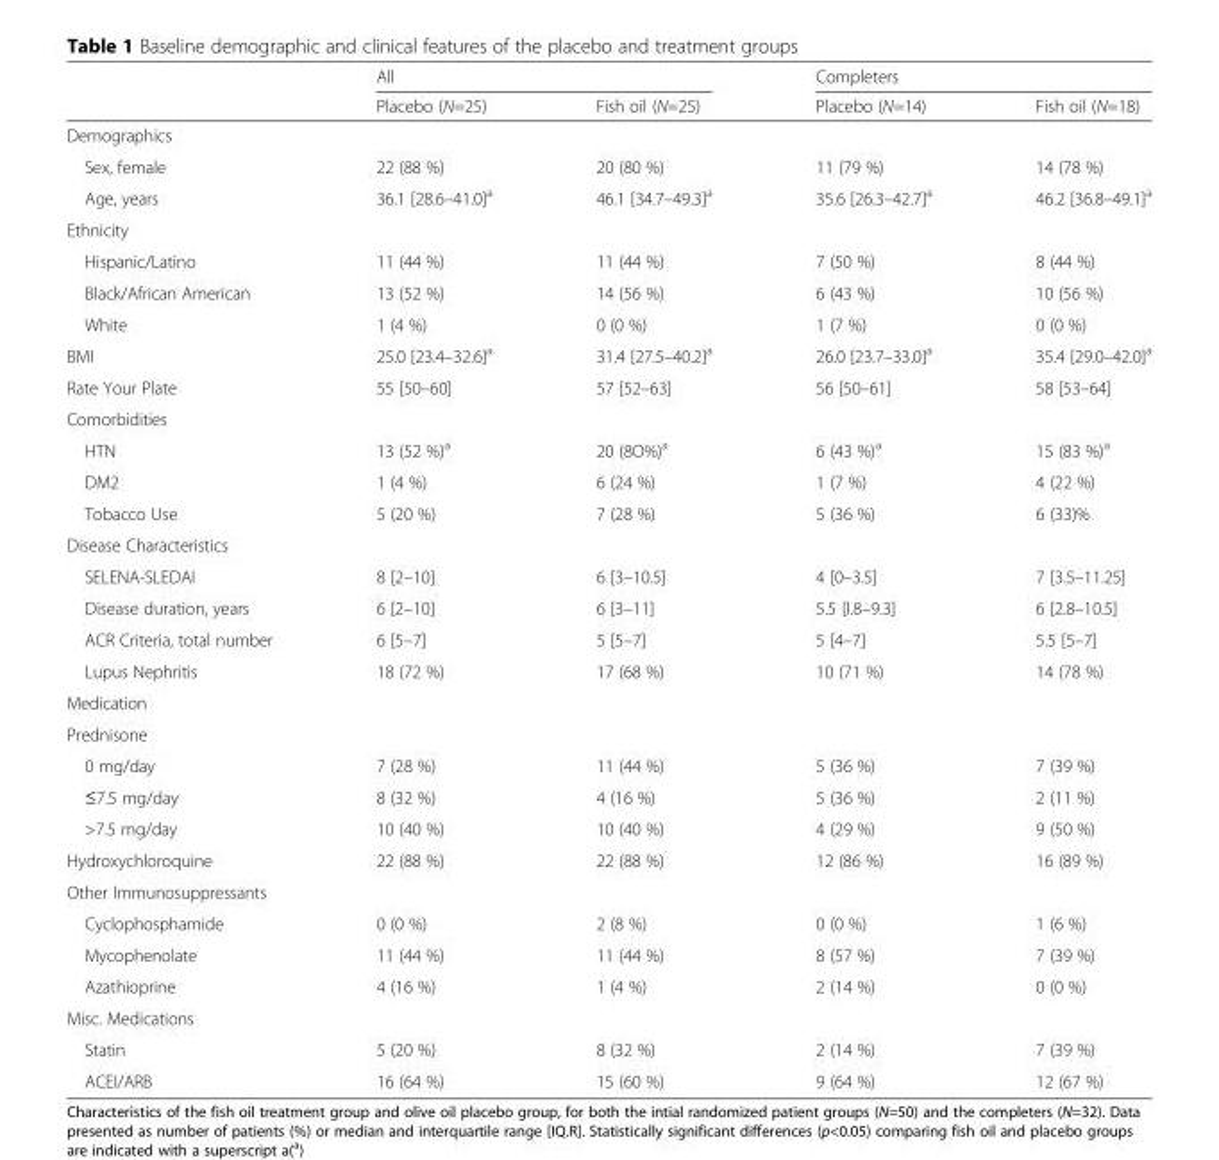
<table><thead><tr><td rowspan="2"></td><td colspan="2">All</td><td colspan="2">Completers</td></tr><tr><td>Placebo (N=25)</td><td>Fish oil (N=25)</td><td>Placebo (N=14)</td><td>Fish oil (N=18)</td></tr></thead><tbody><tr><td colspan="5">Demographics</td></tr><tr><td>Sex, female</td><td>22 (88 %)</td><td>20 (80 %)</td><td>11 (79 %)</td><td>14 (78 %)</td></tr><tr><td>Age, years</td><td>36.1 [28.6–41.0]<sup>a</sup></td><td>46.1 [34.7–49.3]<sup>a</sup></td><td>35.6 [26.3–42.7]<sup>a</sup></td><td>46.2 [36.8–49.1]<sup>a</sup></td></tr><tr><td colspan="5">Ethnicity</td></tr><tr><td>Hispanic/Latino</td><td>11 (44 %)</td><td>11 (44 %)</td><td>7 (50 %)</td><td>8 (44 %)</td></tr><tr><td>Black/African American</td><td>13 (52 %)</td><td>14 (56 %)</td><td>6 (43 %)</td><td>10 (56 %)</td></tr><tr><td>White</td><td>1 (4 %)</td><td>0 (0 %)</td><td>1 (7 %)</td><td>0 (0 %)</td></tr><tr><td>BMI</td><td>25.0 [23.4–32.6]<sup>a</sup></td><td>31.4 [27.5–40.2]<sup>a</sup></td><td>26.0 [23.7–33.0]<sup>a</sup></td><td>35.4 [29.0–42.0]<sup>a</sup></td></tr><tr><td>Rate Your Plate</td><td>55 [50–60]</td><td>57 [52–63]</td><td>56 [50–61]</td><td>58 [53–64]</td></tr><tr><td colspan="5">Comorbidities</td></tr><tr><td>HTN</td><td>13 (52 %)<sup>a</sup></td><td>20 (8O%)<sup>a</sup></td><td>6 (43 %)<sup>a</sup></td><td>15 (83 %)<sup>a</sup></td></tr><tr><td>DM2</td><td>1 (4 %)</td><td>6 (24 %)</td><td>1 (7 %)</td><td>4 (22 %)</td></tr><tr><td>Tobacco Use</td><td>5 (20 %)</td><td>7 (28 %)</td><td>5 (36 %)</td><td>6 (33)%</td></tr><tr><td colspan="5">Disease Characteristics</td></tr><tr><td>SELENA-SLEDAI</td><td>8 [2–10]</td><td>6 [3–10.5]</td><td>4 [0–3.5]</td><td>7 [3.5–11.25]</td></tr><tr><td>Disease duration, years</td><td>6 [2–10]</td><td>6 [3–11]</td><td>5.5 [l.8–9.3]</td><td>6 [2.8–10.5]</td></tr><tr><td>ACR Criteria, total number</td><td>6 [5–7]</td><td>5 [5–7]</td><td>5 [4–7]</td><td>5.5 [5–7]</td></tr><tr><td>Lupus Nephritis</td><td>18 (72 %)</td><td>17 (68 %)</td><td>10 (71 %)</td><td>14 (78 %)</td></tr><tr><td colspan="5">Medication</td></tr><tr><td colspan="5">Prednisone</td></tr><tr><td>0 mg/day</td><td>7 (28 %)</td><td>11 (44 %)</td><td>5 (36 %)</td><td>7 (39 %)</td></tr><tr><td>≤7.5 mg/day</td><td>8 (32 %)</td><td>4 (16 %)</td><td>5 (36 %)</td><td>2 (11 %)</td></tr><tr><td>&gt;7.5 mg/day</td><td>10 (40 %)</td><td>10 (40 %)</td><td>4 (29 %)</td><td>9 (50 %)</td></tr><tr><td>Hydroxychloroquine</td><td>22 (88 %)</td><td>22 (88 %)</td><td>12 (86 %)</td><td>16 (89 %)</td></tr><tr><td colspan="5">Other Immunosuppressants</td></tr><tr><td>Cyclophosphamide</td><td>0 (0 %)</td><td>2 (8 %)</td><td>0 (0 %)</td><td>1 (6 %)</td></tr><tr><td>Mycophenolate</td><td>11 (44 %)</td><td>11 (44 %)</td><td>8 (57 %)</td><td>7 (39 %)</td></tr><tr><td>Azathioprine</td><td>4 (16 %)</td><td>1 (4 %)</td><td>2 (14 %)</td><td>0 (0 %)</td></tr><tr><td colspan="5">Misc. Medications</td></tr><tr><td>Statin</td><td>5 (20 %)</td><td>8 (32 %)</td><td>2 (14 %)</td><td>7 (39 %)</td></tr><tr><td>ACEI/ARB</td><td>16 (64 %)</td><td>15 (60 %)</td><td>9 (64 %)</td><td>12 (67 %)</td></tr></tbody></table>